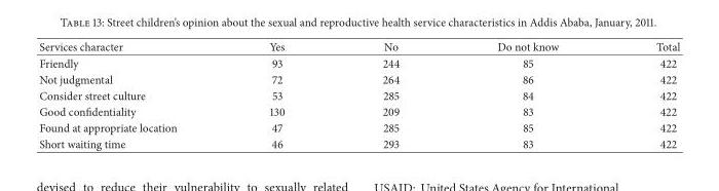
<table><thead><tr><td>Services character</td><td>Yes</td><td>No</td><td>Do not know</td><td>Total</td></tr></thead><tbody><tr><td>Friendly</td><td>93</td><td>244</td><td>85</td><td>422</td></tr><tr><td>Not judgmental</td><td>72</td><td>264</td><td>86</td><td>422</td></tr><tr><td>Consider street culture</td><td>53</td><td>285</td><td>84</td><td>422</td></tr><tr><td>Good confidentiality</td><td>130</td><td>209</td><td>83</td><td>422</td></tr><tr><td>Found at appropriate location</td><td>47</td><td>285</td><td>85</td><td>422</td></tr><tr><td>Short waiting time</td><td>46</td><td>293</td><td>83</td><td>422</td></tr></tbody></table>